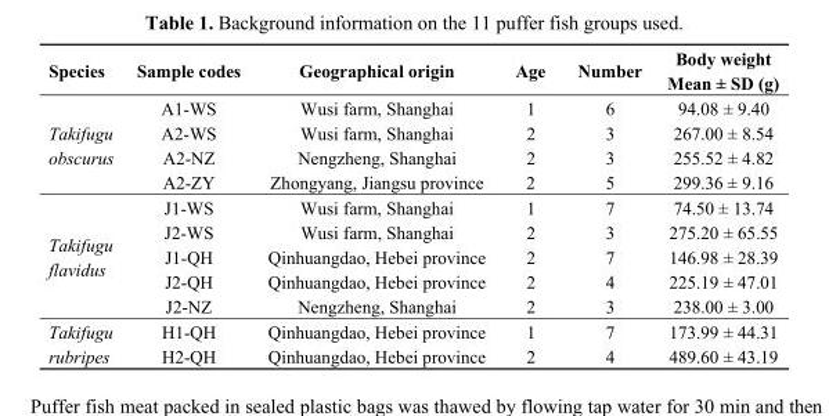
<table><thead><tr><td>Species</td><td>Sample codes</td><td>Geographical origin</td><td>Age</td><td>Number</td><td>Body weight Mean ± SD (g)</td></tr></thead><tbody><tr><td rowspan="4">Takifugu obscurus</td><td>A1-WS</td><td>Wusi farm, Shanghai</td><td>1</td><td>6</td><td>94.08 ± 9.40</td></tr><tr><td>A2-WS</td><td>Wusi farm, Shanghai</td><td>2</td><td>3</td><td>267.00 ± 8.54</td></tr><tr><td>A2-NZ</td><td>Nengzheng, Shanghai</td><td>2</td><td>3</td><td>255.52 ± 4.82</td></tr><tr><td>A2-ZY</td><td>Zhongyang, Jiangsu province</td><td>2</td><td>5</td><td>299.36 ± 9.16</td></tr><tr><td rowspan="5">Takifugu flavidus</td><td>J1-WS</td><td>Wusi farm, Shanghai</td><td>1</td><td>7</td><td>74.50 ± 13.74</td></tr><tr><td>J2-WS</td><td>Wusi farm, Shanghai</td><td>2</td><td>3</td><td>275.20 ± 65.55</td></tr><tr><td>J1-QH</td><td>Qinhuangdao, Hebei province</td><td>2</td><td>7</td><td>146.98 ± 28.39</td></tr><tr><td>J2-QH</td><td>Qinhuangdao, Hebei province</td><td>2</td><td>4</td><td>225.19 ± 47.01</td></tr><tr><td>J2-NZ</td><td>Nengzheng, Shanghai</td><td>2</td><td>3</td><td>238.00 ± 3.00</td></tr><tr><td rowspan="2">Takifugu rubripes</td><td>H1-QH</td><td>Qinhuangdao, Hebei province</td><td>1</td><td>7</td><td>173.99 ± 44.31</td></tr><tr><td>H2-QH</td><td>Qinhuangdao, Hebei province</td><td>2</td><td>4</td><td>489.60 ± 43.19</td></tr></tbody></table>